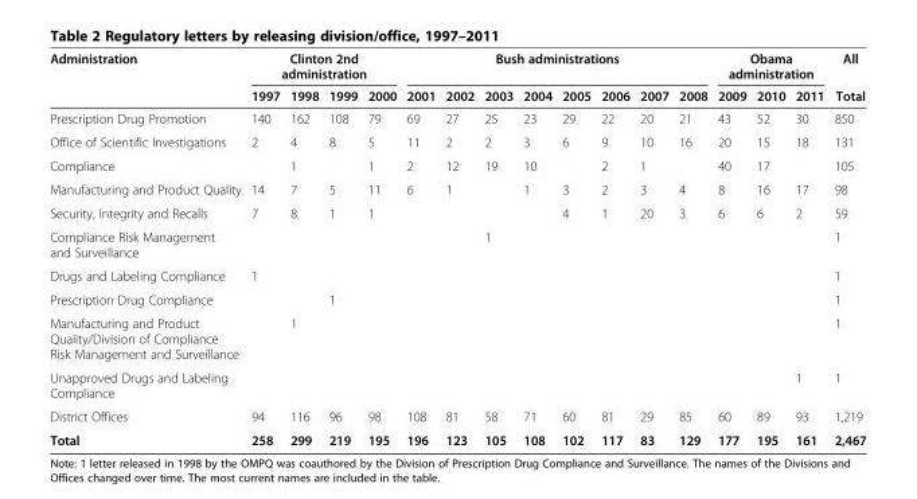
<table><thead><tr><td rowspan="2">Administration</td><td colspan="4">Clinton 2nd administration</td><td colspan="8">Bush administrations</td><td colspan="3">Obama administration</td><td rowspan="2">All Total</td></tr><tr><td>1997</td><td>1998</td><td>1999</td><td>2000</td><td>2001</td><td>2002</td><td>2003</td><td>2004</td><td>2005</td><td>2006</td><td>2007</td><td>2008</td><td>2009</td><td>2010</td><td>2011</td></tr></thead><tbody><tr><td>Prescription Drug Promotion</td><td>140</td><td>162</td><td>108</td><td>79</td><td>69</td><td>27</td><td>25</td><td>23</td><td>29</td><td>22</td><td>20</td><td>21</td><td>43</td><td>52</td><td>30</td><td>850</td></tr><tr><td>Office of Scientific Investigations</td><td>2</td><td>4</td><td>8</td><td>5</td><td>11</td><td>2</td><td>2</td><td>3</td><td>6</td><td>9</td><td>10</td><td>16</td><td>20</td><td>15</td><td>18</td><td>131</td></tr><tr><td>Compliance</td><td></td><td>1</td><td></td><td>1</td><td>2</td><td>12</td><td>19</td><td>10</td><td></td><td>2</td><td>1</td><td></td><td>40</td><td>17</td><td></td><td>105</td></tr><tr><td>Manufacturing and Product Quality</td><td>14</td><td>7</td><td>5</td><td>11</td><td>6</td><td>1</td><td></td><td>1</td><td>3</td><td>2</td><td>3</td><td>4</td><td>8</td><td>16</td><td>17</td><td>98</td></tr><tr><td>Security, Integrity and Recalls</td><td>7</td><td>8</td><td>1</td><td>1</td><td></td><td></td><td></td><td></td><td>4</td><td>1</td><td>20</td><td>3</td><td>6</td><td>6</td><td>2</td><td>59</td></tr><tr><td>Compliance Risk Management and Surveillance</td><td></td><td></td><td></td><td></td><td></td><td></td><td>1</td><td></td><td></td><td></td><td></td><td></td><td></td><td></td><td></td><td>1</td></tr><tr><td>Drugs and Labeling Compliance</td><td>1</td><td></td><td></td><td></td><td></td><td></td><td></td><td></td><td></td><td></td><td></td><td></td><td></td><td></td><td></td><td>1</td></tr><tr><td>Prescription Drug Compliance</td><td></td><td></td><td>1</td><td></td><td></td><td></td><td></td><td></td><td></td><td></td><td></td><td></td><td></td><td></td><td></td><td>1</td></tr><tr><td>Manufacturing and Product Quality/Division of Compliance Risk Management and Surveillance</td><td></td><td>1</td><td></td><td></td><td></td><td></td><td></td><td></td><td></td><td></td><td></td><td></td><td></td><td></td><td></td><td>1</td></tr><tr><td>Unapproved Drugs and Labeling Compliance</td><td></td><td></td><td></td><td></td><td></td><td></td><td></td><td></td><td></td><td></td><td></td><td></td><td></td><td></td><td>1</td><td>1</td></tr><tr><td>District Offices</td><td>94</td><td>116</td><td>96</td><td>98</td><td>108</td><td>81</td><td>58</td><td>71</td><td>60</td><td>81</td><td>29</td><td>85</td><td>60</td><td>89</td><td>93</td><td>1,219</td></tr><tr><td>Total</td><td>258</td><td>299</td><td>219</td><td>195</td><td>196</td><td>123</td><td>105</td><td>108</td><td>102</td><td>117</td><td>83</td><td>129</td><td>177</td><td>195</td><td>161</td><td>2,467</td></tr></tbody></table>